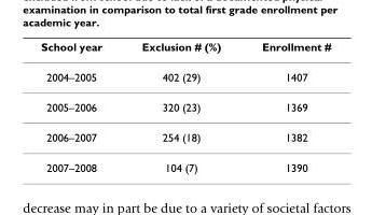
<table><thead><tr><td>School year</td><td>Exclusion # (%)</td><td>Enrollment #</td></tr></thead><tbody><tr><td>2004–2005</td><td>402 (29)</td><td>1407</td></tr><tr><td>2005–2006</td><td>320 (23)</td><td>1369</td></tr><tr><td>2006–2007</td><td>254 (18)</td><td>1382</td></tr><tr><td>2007–2008</td><td>104 (7)</td><td>1390</td></tr></tbody></table>